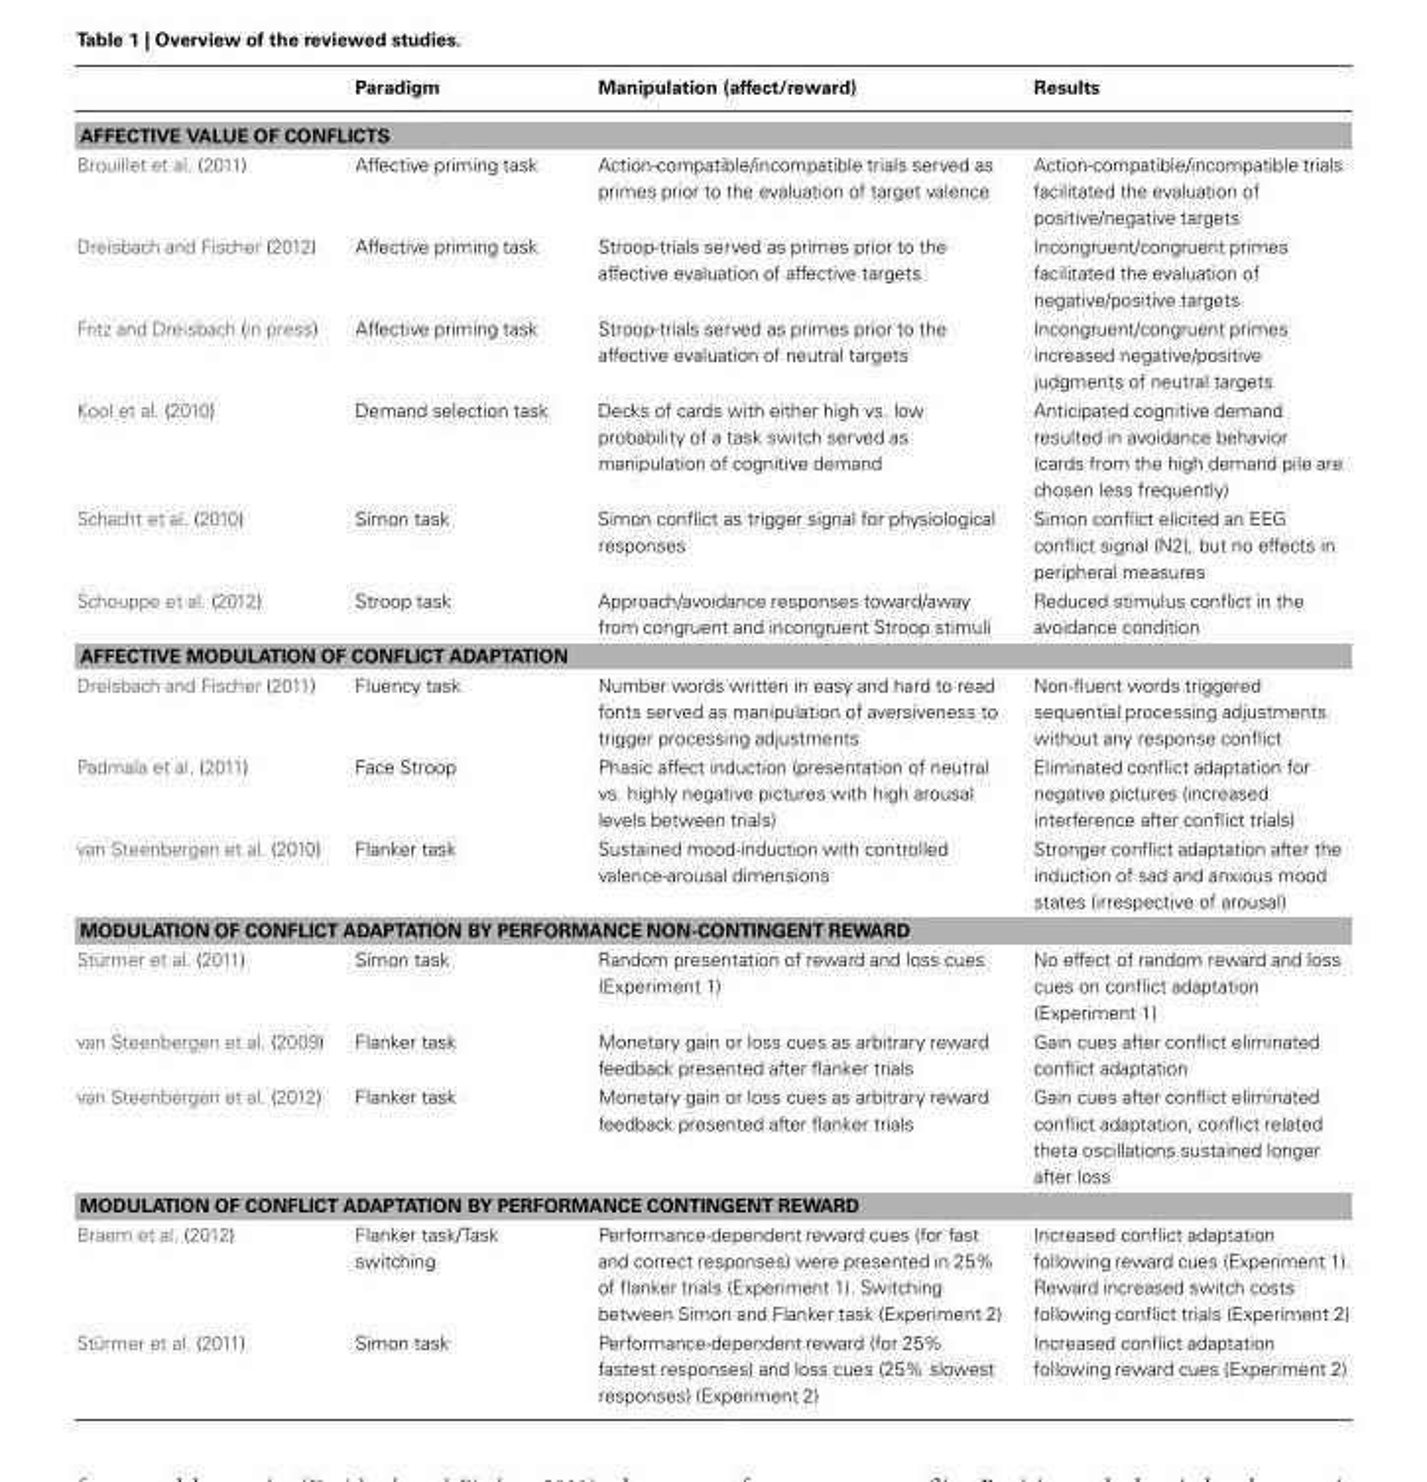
<table><thead><tr><td></td><td>Paradigm</td><td>Manipulation (affect/reward)</td><td>Results</td></tr></thead><tbody><tr><td colspan="4">AFFECTIVE VALUE OF CONFLICTS</td></tr><tr><td>Brouillet et al. (2011)</td><td>Affective priming task</td><td>Action-compatible/incompatible trials served as primes prior to the evaluation of target valence</td><td>Action-compatible/incompatible trials facilitated the evaluation of positive/negative targets</td></tr><tr><td>Dreisbach and Fischer (2012)</td><td>Affective priming task</td><td>Stroop-trials served as primes prior to the affective evaluation of affective targets</td><td>Incongruent/congruent primes facilitated the evaluation of negative/positive targets</td></tr><tr><td>Fritz and Dreisbach (in press)</td><td>Affective priming task</td><td>Stroop-trials served as primes prior to the affective evaluation of neutral targets</td><td>Incongruent/congruent primes increased negative/positive judgments of neutral targets</td></tr><tr><td>Kool et al. (2010)</td><td>Demand selection task</td><td>Decks of cards with either high vs. low probability of a task switch served as manipulation of cognitive demand</td><td>Anticipated cognitive demand resulted in avoidance behavior (cards from the high demand pile are chosen less frequently)</td></tr><tr><td>Schacht et al. (2010)</td><td>Simon task</td><td>Simon conflict as trigger signal for physiological responses</td><td>Simon conflict elicited an EEG conflict signal (N2), but no effects in peripheral measures</td></tr><tr><td>Schouppe et al. (2012)</td><td>Stroop task</td><td>Approach/avoidance responses toward/away from congruent and incongruent Stroop stimuli</td><td>Reduced stimulus conflict in the avoidance condition</td></tr><tr><td colspan="4">AFFECTIVE MODULATION OF CONFLICT ADAPTATION</td></tr><tr><td>Dreisbach and Fischer (2011)</td><td>Fluency task</td><td>Number words written in easy and hard to read fonts served as manipulation of aversiveness to trigger processing adjustments</td><td>Non-fluent words triggered sequential processing adjustments without any response conflict</td></tr><tr><td>Padmala et al. (2011)</td><td>Face Stroop</td><td>Phasic affect induction (presentation of neutral vs. highly negative pictures with high arousal levels between trials)</td><td>Eliminated conflict adaptation for negative pictures (increased interference after conflict trials)</td></tr><tr><td>van Steenbergen et al. (2010)</td><td>Flanker task</td><td>Sustained mood-induction with controlled valence-arousal dimensions</td><td>Stronger conflict adaptation after the induction of sad and anxious mood states (irrespective of arousal)</td></tr><tr><td colspan="4">MODULATION OF CONFLICT ADAPTATION BY PERFORMANCE NON-CONTINGENT REWARD</td></tr><tr><td>Stürmer et al. (2011)</td><td>Simon task</td><td>Random presentation of reward and loss cues (Experiment 1)</td><td>No effect of random reward and loss cues on conflict adaptation (Experiment 1)</td></tr><tr><td>van Steenbergen et al. (2009)</td><td>Flanker task</td><td>Monetary gain or loss cues as arbitrary reward feedback presented after flanker trials</td><td>Gain cues after conflict eliminated conflict adaptation</td></tr><tr><td>van Steenbergen et al. (2012)</td><td>Flanker task</td><td>Monetary gain or loss cues as arbitrary reward feedback presented after flanker trials</td><td>Gain cues after conflict eliminated conflict adaptation, conflict related theta oscillations sustained longer after loss</td></tr><tr><td colspan="4">MODULATION OF CONFLICT ADAPTATION BY PERFORMANCE CONTINGENT REWARD</td></tr><tr><td>Braem et al. (2012)</td><td>Flanker task/Task switching</td><td>Performance-dependent reward cues (for fast and correct responses) were presented in 25% of flanker trials (Experiment 1). Switching between Simon and Flanker task (Experiment 2)</td><td>Increased conflict adaptation following reward cues (Experiment 1). Reward increased switch costs following conflict trials (Experiment 2)</td></tr><tr><td>Stürmer et al. (2011)</td><td>Simon task</td><td>Performance-dependent reward (for 25% fastest responses) and loss cues (25% slowest responses) (Experiment 2)</td><td>Increased conflict adaptation following reward cues (Experiment 2)</td></tr></tbody></table>